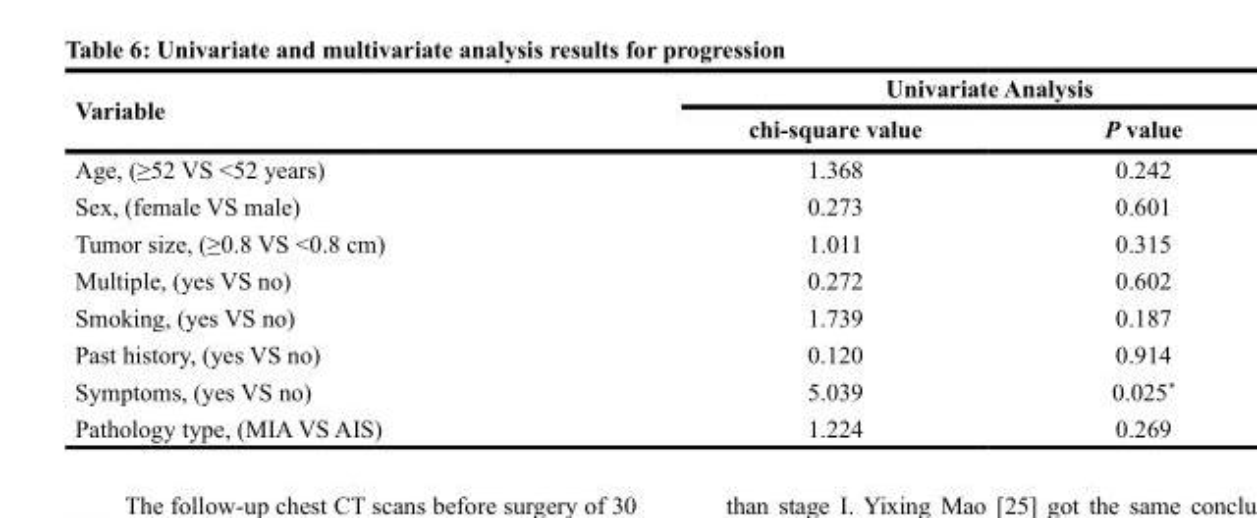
<table><thead><tr><td rowspan="2">Variable</td><td colspan="2">Univariate Analysis</td></tr><tr><td>chi-square value</td><td>P value</td></tr></thead><tbody><tr><td>Age, (≥52 VS &lt;52 years)</td><td>1.368</td><td>0.242</td></tr><tr><td>Sex, (female VS male)</td><td>0.273</td><td>0.601</td></tr><tr><td>Tumor size, (≥0.8 VS &lt;0.8 cm)</td><td>1.011</td><td>0.315</td></tr><tr><td>Multiple, (yes VS no)</td><td>0.272</td><td>0.602</td></tr><tr><td>Smoking, (yes VS no)</td><td>1.739</td><td>0.187</td></tr><tr><td>Past history, (yes VS no)</td><td>0.120</td><td>0.914</td></tr><tr><td>Symptoms, (yes VS no)</td><td>5.039</td><td>0.025*</td></tr><tr><td>Pathology type, (MIA VS AIS)</td><td>1.224</td><td>0.269</td></tr></tbody></table>